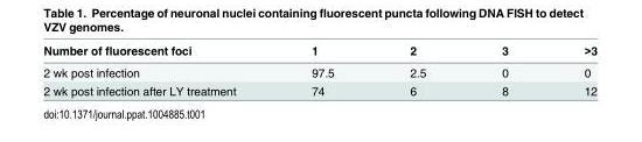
<table><thead><tr><td>Number of fluorescent foci</td><td>1</td><td>2</td><td>3</td><td>&gt;3</td></tr></thead><tbody><tr><td>2 wk post infection</td><td>97.5</td><td>2.5</td><td>0</td><td>0</td></tr><tr><td>2 wk post infection after LY treatment</td><td>74</td><td>6</td><td>8</td><td>12</td></tr></tbody></table>